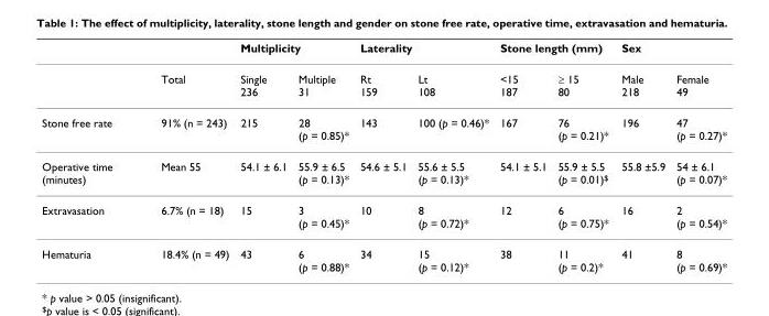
<table><thead><tr><td rowspan="2"></td><td rowspan="2">Total</td><td colspan="2">Multiplicity</td><td colspan="2">Laterality</td><td colspan="2">Stone length (mm)</td><td colspan="2">Sex</td></tr><tr><td>Single 236</td><td>Multiple 31</td><td>Rt 159</td><td>Lt 108</td><td>&lt;15 187</td><td>≥ 15 80</td><td>Male 218</td><td>Female 49</td></tr></thead><tbody><tr><td>Stone free rate</td><td>91% (n = 243)</td><td>215</td><td>28 (p = 0.85)*</td><td>143</td><td>100 (p = 0.46)*</td><td>167</td><td>76 (p = 0.21)*</td><td>196</td><td>47 (p = 0.27)*</td></tr><tr><td>Operative time (minutes)</td><td>Mean 55</td><td>54.1 ± 6.1</td><td>55.9 ± 6.5 (p = 0.13)*</td><td>54.6 ± 5.1</td><td>55.6 ± 5.5 (p = 0.13)*</td><td>54.1 ± 5.1</td><td>55.9 ± 5.5 (p = 0.01)<sup>$</sup></td><td>55.8 ±5.9</td><td>54 ± 6.1 (p = 0.07)*</td></tr><tr><td>Extravasation</td><td>6.7% (n = 18)</td><td>15</td><td>3 (p = 0.45)*</td><td>10</td><td>8 (p = 0.72)*</td><td>12</td><td>6 (p = 0.75)*</td><td>16</td><td>2 (p = 0.54)*</td></tr><tr><td>Hematuria</td><td>18.4% (n = 49)</td><td>43</td><td>6 (p = 0.88)*</td><td>34</td><td>15 (p = 0.12)*</td><td>38</td><td>11 (p = 0.2)*</td><td>41</td><td>8 (p = 0.69)*</td></tr></tbody></table>